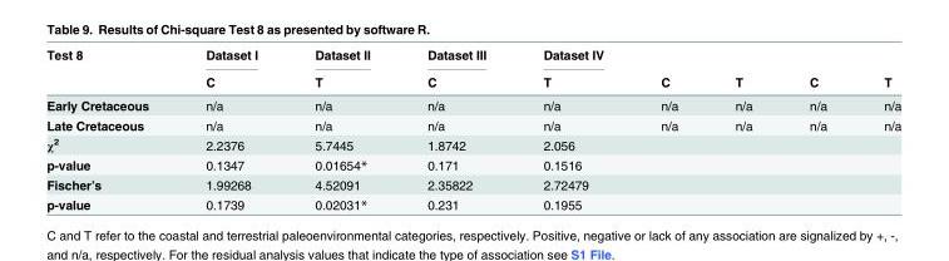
<table><thead><tr><td rowspan="2">Test 8</td><td rowspan="2">Dataset I C</td><td rowspan="2">Dataset II T</td><td rowspan="2">Dataset III C</td><td rowspan="2">Dataset IV T</td><td rowspan="2">C</td><td rowspan="2">T</td><td rowspan="2">C</td><td rowspan="2">T</td></tr><tr></tr></thead><tbody><tr><td>Early Cretaceous</td><td>n/a</td><td>n/a</td><td>n/a</td><td>n/a</td><td>n/a</td><td>n/a</td><td>n/a</td><td>n/a</td></tr><tr><td>Late Cretaceous</td><td>n/a</td><td>n/a</td><td>n/a</td><td>n/a</td><td>n/a</td><td>n/a</td><td>n/a</td><td>n/a</td></tr><tr><td>χ<sup>2</sup></td><td>2.2376</td><td>5.7445</td><td>1.8742</td><td>2.056</td><td></td><td></td><td></td><td></td></tr><tr><td>p-value</td><td>0.1347</td><td>0.01654*</td><td>0.171</td><td>0.1516</td><td></td><td></td><td></td><td></td></tr><tr><td>Fischer’s</td><td>1.99268</td><td>4.52091</td><td>2.35822</td><td>2.72479</td><td></td><td></td><td></td><td></td></tr><tr><td>p-value</td><td>0.1739</td><td>0.02031*</td><td>0.231</td><td>0.1955</td><td></td><td></td><td></td><td></td></tr></tbody></table>